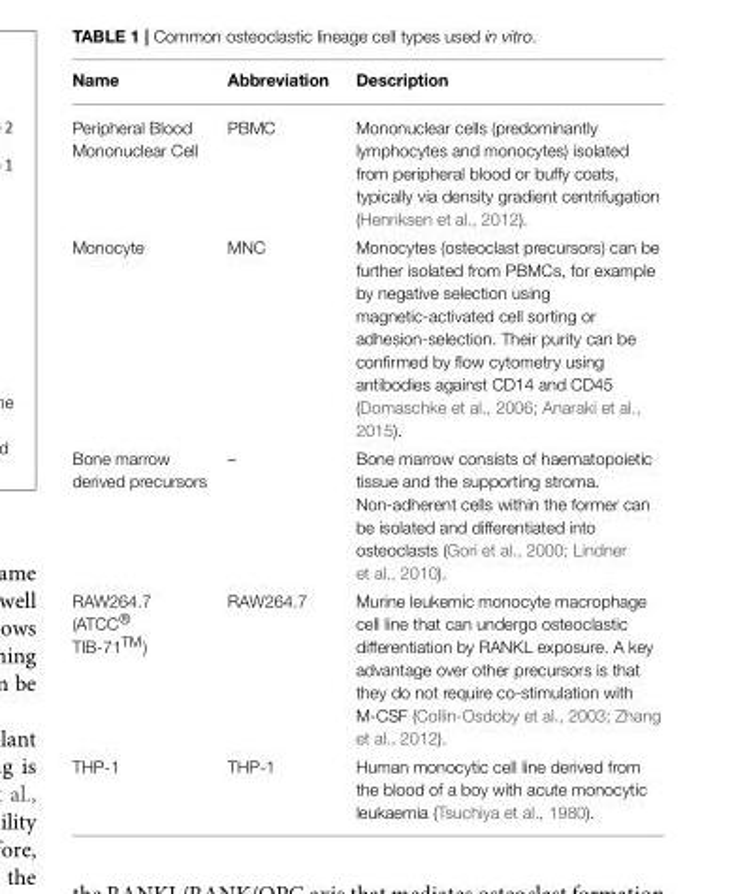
<table><thead><tr><td>Name</td><td>Abbreviation</td><td>Description</td></tr></thead><tbody><tr><td>Peripheral Blood Mononuclear Cell</td><td>PBMC</td><td>Mononuclear cells (predominantly lymphocytes and monocytes) isolated from peripheral blood or buffy coats, typically via density gradient centrifugation (Henriksen et al., 2012).</td></tr><tr><td>Monocyte</td><td>MNC</td><td>Monocytes (osteoclast precursors) can be further isolated from PBMCs, for example by negative selection using magnetic-activated cell sorting or adhesion-selection. Their purity can be confirmed by flow cytometry using antibodies against CD14 and CD45 (Domaschke et al., 2006; Anaraki et al., 2015).</td></tr><tr><td>Bone marrow derived precursors</td><td>–</td><td>Bone marrow consists of haematopoietic tissue and the supporting stroma. Non-adherent cells within the former can be isolated and differentiated into osteoclasts (Gori et al., 2000; Lindner et al., 2010).</td></tr><tr><td>RAW264.7 (ATCC® TIB-71TM)</td><td>RAW264.7</td><td>Murine leukemic monocyte macrophage cell line that can undergo osteoclastic differentiation by RANKL exposure. A key advantage over other precursors is that they do not require co-stimulation with M-CSF (Collin-Osdoby et al., 2003; Zhang et al., 2012).</td></tr><tr><td>THP-1</td><td>THP-1</td><td>Human monocytic cell line derived from the blood of a boy with acute monocytic leukaemia (Tsuchiya et al., 1980).</td></tr></tbody></table>